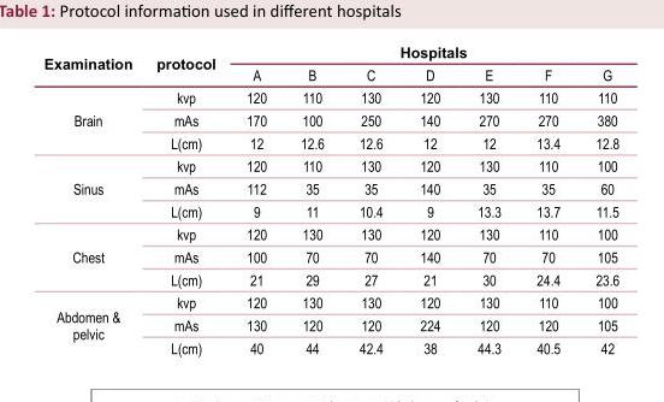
<table><thead><tr><td rowspan="2">Examination</td><td rowspan="2">protocol</td><td colspan="7">Hospitals</td></tr><tr><td>A</td><td>B</td><td>C</td><td>D</td><td>E</td><td>F</td><td>G</td></tr></thead><tbody><tr><td rowspan="3">Brain</td><td>kvp</td><td>120</td><td>110</td><td>130</td><td>120</td><td>130</td><td>110</td><td>110</td></tr><tr><td>mAs</td><td>170</td><td>100</td><td>250</td><td>140</td><td>270</td><td>270</td><td>380</td></tr><tr><td>L(cm)</td><td>12</td><td>12.6</td><td>12.6</td><td>12</td><td>12</td><td>13.4</td><td>12.8</td></tr><tr><td rowspan="3">Sinus</td><td>kvp</td><td>120</td><td>110</td><td>130</td><td>120</td><td>130</td><td>110</td><td>100</td></tr><tr><td>mAs</td><td>112</td><td>35</td><td>35</td><td>140</td><td>35</td><td>35</td><td>60</td></tr><tr><td>L(cm)</td><td>9</td><td>11</td><td>10.4</td><td>9</td><td>13.3</td><td>13.7</td><td>11.5</td></tr><tr><td rowspan="3">Chest</td><td>kvp</td><td>120</td><td>130</td><td>130</td><td>120</td><td>130</td><td>110</td><td>100</td></tr><tr><td>mAs</td><td>100</td><td>70</td><td>70</td><td>140</td><td>70</td><td>70</td><td>105</td></tr><tr><td>L(cm)</td><td>21</td><td>29</td><td>27</td><td>21</td><td>30</td><td>24.4</td><td>23.6</td></tr><tr><td rowspan="3">Abdomen &amp; pelvic</td><td>kvp</td><td>120</td><td>130</td><td>130</td><td>120</td><td>130</td><td>110</td><td>100</td></tr><tr><td>mAs</td><td>130</td><td>120</td><td>120</td><td>224</td><td>120</td><td>120</td><td>105</td></tr><tr><td>L(cm)</td><td>40</td><td>44</td><td>42.4</td><td>38</td><td>44.3</td><td>40.5</td><td>42</td></tr></tbody></table>